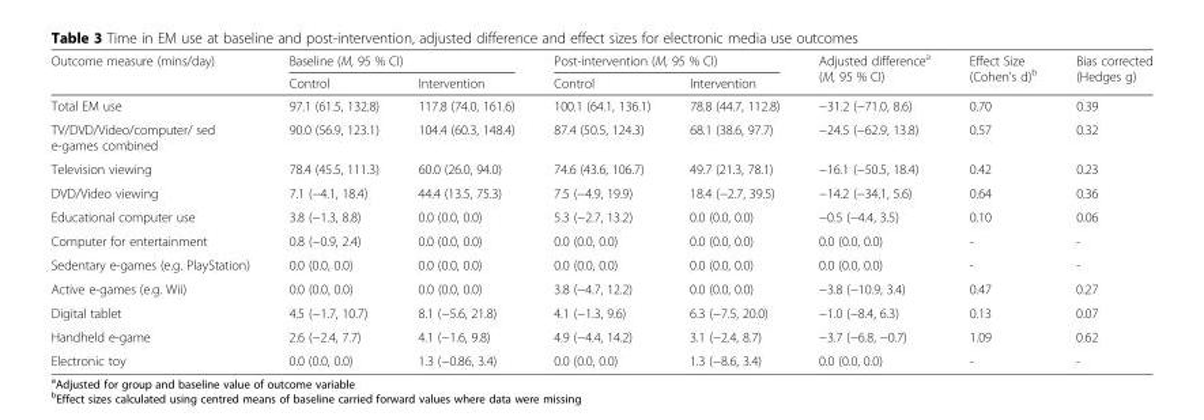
<table><thead><tr><td rowspan="2">Outcome measure (mins/day)</td><td colspan="2">Baseline (M, 95 % CI)</td><td colspan="2">Post-intervention (M, 95 % CI)</td><td rowspan="2">Adjusted difference<sup>a</sup> (M, 95 % CI)</td><td rowspan="2">Effect Size (Cohen’s d)<sup>b</sup></td><td rowspan="2">Bias corrected (Hedges g)</td></tr><tr><td>Control</td><td>Intervention</td><td>Control</td><td>Intervention</td></tr></thead><tbody><tr><td>Total EM use</td><td>97.1 (61.5, 132.8)</td><td>117.8 (74.0, 161.6)</td><td>100.1 (64.1, 136.1)</td><td>78.8 (44.7, 112.8)</td><td>−31.2 (−71.0, 8.6)</td><td>0.70</td><td>0.39</td></tr><tr><td>TV/DVD/Video/computer/ sed e-games combined</td><td>90.0 (56.9, 123.1)</td><td>104.4 (60.3, 148.4)</td><td>87.4 (50.5, 124.3)</td><td>68.1 (38.6, 97.7)</td><td>−24.5 (−62.9, 13.8)</td><td>0.57</td><td>0.32</td></tr><tr><td>Television viewing</td><td>78.4 (45.5, 111.3)</td><td>60.0 (26.0, 94.0)</td><td>74.6 (43.6, 106.7)</td><td>49.7 (21.3, 78.1)</td><td>−16.1 (−50.5, 18.4)</td><td>0.42</td><td>0.23</td></tr><tr><td>DVD/Video viewing</td><td>7.1 (−4.1, 18.4)</td><td>44.4 (13.5, 75.3)</td><td>7.5 (−4.9, 19.9)</td><td>18.4 (−2.7, 39.5)</td><td>−14.2 (−34.1, 5.6)</td><td>0.64</td><td>0.36</td></tr><tr><td>Educational computer use</td><td>3.8 (−1.3, 8.8)</td><td>0.0 (0.0, 0.0)</td><td>5.3 (−2.7, 13.2)</td><td>0.0 (0.0, 0.0)</td><td>−0.5 (−4.4, 3.5)</td><td>0.10</td><td>0.06</td></tr><tr><td>Computer for entertainment</td><td>0.8 (−0.9, 2.4)</td><td>0.0 (0.0, 0.0)</td><td>0.0 (0.0, 0.0)</td><td>0.0 (0.0, 0.0)</td><td>0.0 (0.0, 0.0)</td><td>-</td><td>-</td></tr><tr><td>Sedentary e-games (e.g. PlayStation)</td><td>0.0 (0.0, 0.0)</td><td>0.0 (0.0, 0.0)</td><td>0.0 (0.0, 0.0)</td><td>0.0 (0.0, 0.0)</td><td>0.0 (0.0, 0.0)</td><td>-</td><td>-</td></tr><tr><td>Active e-games (e.g. Wii)</td><td>0.0 (0.0, 0.0)</td><td>0.0 (0.0, 0.0)</td><td>3.8 (−4.7, 12.2)</td><td>0.0 (0.0, 0.0)</td><td>−3.8 (−10.9, 3.4)</td><td>0.47</td><td>0.27</td></tr><tr><td>Digital tablet</td><td>4.5 (−1.7, 10.7)</td><td>8.1 (−5.6, 21.8)</td><td>4.1 (−1.3, 9.6)</td><td>6.3 (−7.5, 20.0)</td><td>−1.0 (−8.4, 6.3)</td><td>0.13</td><td>0.07</td></tr><tr><td>Handheld e-game</td><td>2.6 (−2.4, 7.7)</td><td>4.1 (−1.6, 9.8)</td><td>4.9 (−4.4, 14.2)</td><td>3.1 (−2.4, 8.7)</td><td>−3.7 (−6.8, −0.7)</td><td>1.09</td><td>0.62</td></tr><tr><td>Electronic toy</td><td>0.0 (0.0, 0.0)</td><td>1.3 (−0.86, 3.4)</td><td>0.0 (0.0, 0.0)</td><td>1.3 (−8.6, 3.4)</td><td>0.0 (0.0, 0.0)</td><td>-</td><td>-</td></tr></tbody></table>